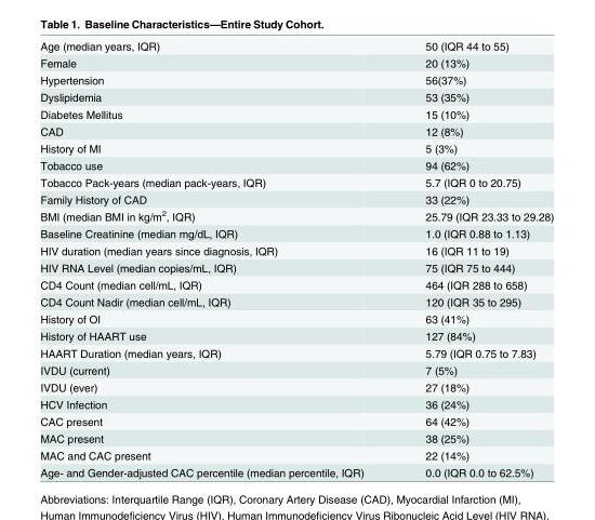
<table><tbody><tr><td>Age (median years, IQR)</td><td>50 (IQR 44 to 55)</td></tr><tr><td>Female</td><td>20 (13%)</td></tr><tr><td>Hypertension</td><td>56(37%)</td></tr><tr><td>Dyslipidemia</td><td>53 (35%)</td></tr><tr><td>Diabetes Mellitus</td><td>15 (10%)</td></tr><tr><td>CAD</td><td>12 (8%)</td></tr><tr><td>History of MI</td><td>5 (3%)</td></tr><tr><td>Tobacco use</td><td>94 (62%)</td></tr><tr><td>Tobacco Pack-years (median pack-years, IQR)</td><td>5.7 (IQR 0 to 20.75)</td></tr><tr><td>Family History of CAD</td><td>33 (22%)</td></tr><tr><td>BMI (median BMI in kg/m<sup>2</sup>, IQR)</td><td>25.79 (IQR 23.33 to 29.28)</td></tr><tr><td>Baseline Creatinine (median mg/dL, IQR)</td><td>1.0 (IQR 0.88 to 1.13)</td></tr><tr><td>HIV duration (median years since diagnosis, IQR)</td><td>16 (IQR 11 to 19)</td></tr><tr><td>HIV RNA Level (median copies/mL, IQR)</td><td>75 (IQR 75 to 444)</td></tr><tr><td>CD4 Count (median cell/mL, IQR)</td><td>464 (IQR 288 to 658)</td></tr><tr><td>CD4 Count Nadir (median cell/mL, IQR)</td><td>120 (IQR 35 to 295)</td></tr><tr><td>History of OI</td><td>63 (41%)</td></tr><tr><td>History of HAART use</td><td>127 (84%)</td></tr><tr><td>HAART Duration (median years, IQR)</td><td>5.79 (IQR 0.75 to 7.83)</td></tr><tr><td>IVDU (current)</td><td>7 (5%)</td></tr><tr><td>IVDU (ever)</td><td>27 (18%)</td></tr><tr><td>HCV Infection</td><td>36 (24%)</td></tr><tr><td>CAC present</td><td>64 (42%)</td></tr><tr><td>MAC present</td><td>38 (25%)</td></tr><tr><td>MAC and CAC present</td><td>22 (14%)</td></tr><tr><td>Age- and Gender-adjusted CAC percentile (median percentile, IQR)</td><td>0.0 (IQR 0.0 to 62.5%)</td></tr></tbody></table>